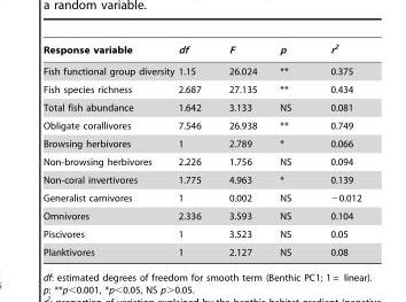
<table><thead><tr><td>Response variable</td><td>df</td><td>F</td><td>p</td><td>r<sup>2</sup></td></tr></thead><tbody><tr><td>Fish functional group diversity</td><td>1.15</td><td>26.024</td><td>**</td><td>0.375</td></tr><tr><td>Fish species richness</td><td>2.687</td><td>27.135</td><td>**</td><td>0.434</td></tr><tr><td>Total fish abundance</td><td>1.642</td><td>3.133</td><td>NS</td><td>0.081</td></tr><tr><td>Obligate corallivores</td><td>7.546</td><td>26.938</td><td>**</td><td>0.749</td></tr><tr><td>Browsing herbivores</td><td>1</td><td>2.789</td><td>*</td><td>0.066</td></tr><tr><td>Non-browsing herbivores</td><td>2.226</td><td>1.756</td><td>NS</td><td>0.094</td></tr><tr><td>Non-coral invertivores</td><td>1.775</td><td>4.963</td><td>*</td><td>0.139</td></tr><tr><td>Generalist carnivores</td><td>1</td><td>0.002</td><td>NS</td><td>−0.012</td></tr><tr><td>Omnivores</td><td>2.336</td><td>3.593</td><td>NS</td><td>0.104</td></tr><tr><td>Piscivores</td><td>1</td><td>3.523</td><td>NS</td><td>0.05</td></tr><tr><td>Planktivores</td><td>1</td><td>2.127</td><td>NS</td><td>0.08</td></tr></tbody></table>